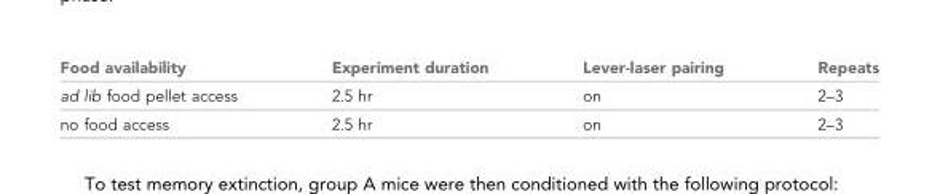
<table><thead><tr><td>Food availability</td><td>Experiment duration</td><td>Lever-laser pairing</td><td>Repeats</td></tr></thead><tbody><tr><td>ad lib food pellet access</td><td>2.5 hr</td><td>on</td><td>2–3</td></tr><tr><td>no food access</td><td>2.5 hr</td><td>on</td><td>2–3</td></tr></tbody></table>